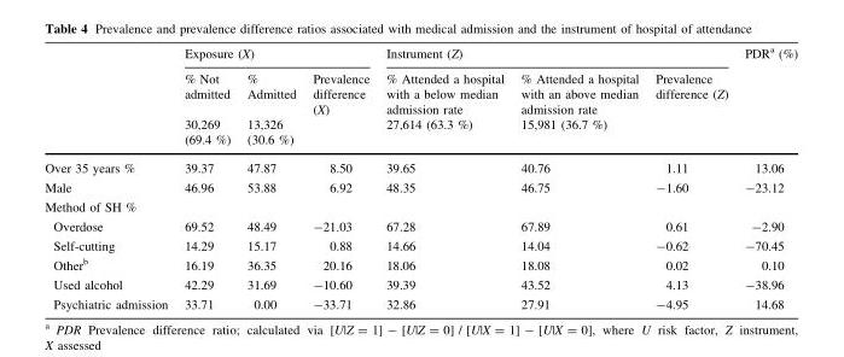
<table><thead><tr><td rowspan="3"></td><td colspan="3">Exposure (X)</td><td colspan="3">Instrument (Z)</td><td rowspan="3">PDR<sup>a</sup> (%)</td></tr><tr><td rowspan="2">% Not admitted 30,269 (69.4 %)</td><td rowspan="2">% Admitted 13,326 (30.6 %)</td><td rowspan="2">Prevalence difference (X)</td><td rowspan="2">% Attended a hospital with a below median admission rate 27,614 (63.3 %)</td><td rowspan="2">% Attended a hospital with an above median admission rate 15,981 (36.7 %)</td><td rowspan="2">Prevalence difference (Z)</td></tr><tr></tr></thead><tbody><tr><td>Over 35 years %</td><td>39.37</td><td>47.87</td><td>8.50</td><td>39.65</td><td>40.76</td><td>1.11</td><td>13.06</td></tr><tr><td>Male</td><td>46.96</td><td>53.88</td><td>6.92</td><td>48.35</td><td>46.75</td><td>-1.60</td><td>-23.12</td></tr><tr><td colspan="8">Method of SH %</td></tr><tr><td>Overdose</td><td>69.52</td><td>48.49</td><td>-21.03</td><td>67.28</td><td>67.89</td><td>0.61</td><td>-2.90</td></tr><tr><td>Self-cutting</td><td>14.29</td><td>15.17</td><td>0.88</td><td>14.66</td><td>14.04</td><td>-0.62</td><td>-70.45</td></tr><tr><td>Other<sup>b</sup></td><td>16.19</td><td>36.35</td><td>20.16</td><td>18.06</td><td>18.08</td><td>0.02</td><td>0.10</td></tr><tr><td>Used alcohol</td><td>42.29</td><td>31.69</td><td>-10.60</td><td>39.39</td><td>43.52</td><td>4.13</td><td>-38.96</td></tr><tr><td>Psychiatric admission</td><td>33.71</td><td>0.00</td><td>-33.71</td><td>32.86</td><td>27.91</td><td>-4.95</td><td>14.68</td></tr></tbody></table>